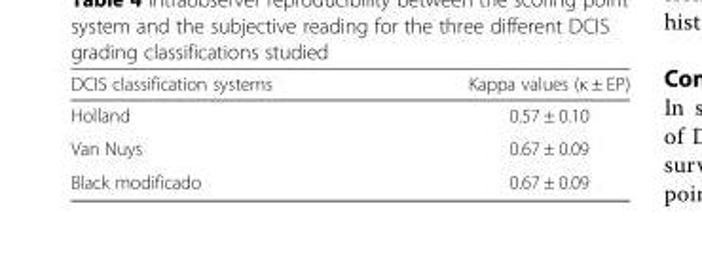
<table><thead><tr><td>DCIS classification systems</td><td>Kappa values (κ ± EP)</td></tr></thead><tbody><tr><td>Holland</td><td>0.57 ± 0.10</td></tr><tr><td>Van Nuys</td><td>0.67 ± 0.09</td></tr><tr><td>Black modificado</td><td>0.67 ± 0.09</td></tr></tbody></table>